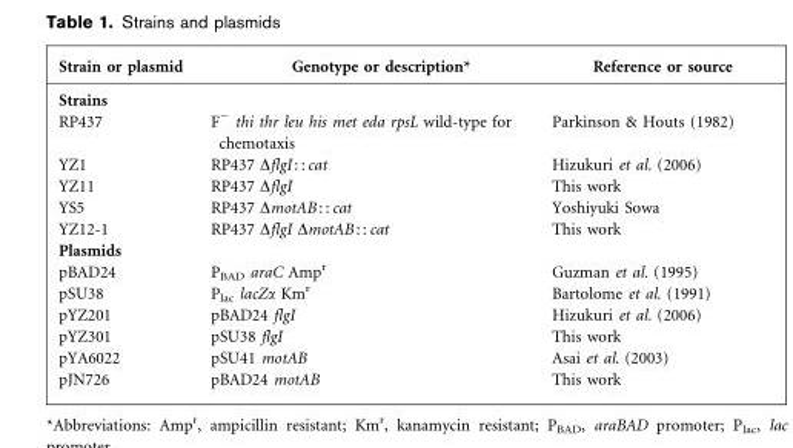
<table><thead><tr><td>Strain or plasmid</td><td>Genotype or description*</td><td>Reference or source</td></tr></thead><tbody><tr><td colspan="3">Strains</td></tr><tr><td>RP437</td><td>F<sup>−</sup> thi thr leu his met eda rpsL wild-type for chemotaxis</td><td>Parkinson &amp; Houts (1982)</td></tr><tr><td>YZ1</td><td>RP437 ΔflgI : : cat</td><td>Hizukuri et al. (2006)</td></tr><tr><td>YZ11</td><td>RP437 ΔflgI</td><td>This work</td></tr><tr><td>YS5</td><td>RP437 ΔmotAB : : cat</td><td>Yoshiyuki Sowa</td></tr><tr><td>YZ12-1</td><td>RP437 ΔflgI ΔmotAB : : cat</td><td>This work</td></tr><tr><td colspan="3">Plasmids</td></tr><tr><td>pBAD24</td><td>P<sub>BAD</sub> araC Amp<sup>r</sup></td><td>Guzman et al. (1995)</td></tr><tr><td>pSU38</td><td>P<sub>lac</sub> lacZα Km<sup>r</sup></td><td>Bartolome et al. (1991)</td></tr><tr><td>pYZ201</td><td>pBAD24 flgI</td><td>Hizukuri et al. (2006)</td></tr><tr><td>pYZ301</td><td>pSU38 flgI</td><td>This work</td></tr><tr><td>pYA6022</td><td>pSU41 motAB</td><td>Asai et al. (2003)</td></tr><tr><td>pJN726</td><td>pBAD24 motAB</td><td>This work</td></tr></tbody></table>